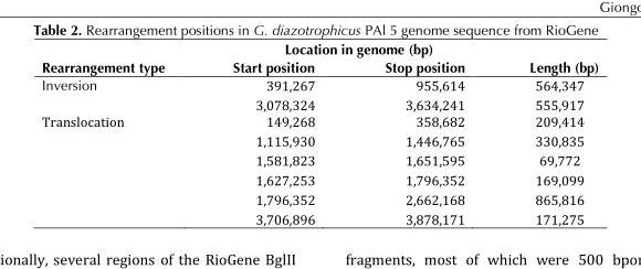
<table><thead><tr><td rowspan="2">Rearrangement type</td><td colspan="2">Location in genome (bp)</td><td rowspan="2">Length (bp)</td></tr><tr><td>Start position</td><td>Stop position</td></tr></thead><tbody><tr><td rowspan="2">Inversion</td><td>391,267</td><td>955,614</td><td>564,347</td></tr><tr><td>3,078,324</td><td>3,634,241</td><td>555,917</td></tr><tr><td rowspan="6">Translocation</td><td>149,268</td><td>358,682</td><td>209,414</td></tr><tr><td>1,115,930</td><td>1,446,765</td><td>330,835</td></tr><tr><td>1,581,823</td><td>1,651,595</td><td>69,772</td></tr><tr><td>1,627,253</td><td>1,796,352</td><td>169,099</td></tr><tr><td>1,796,352</td><td>2,662,168</td><td>865,816</td></tr><tr><td>3,706,896</td><td>3,878,171</td><td>171,275</td></tr></tbody></table>